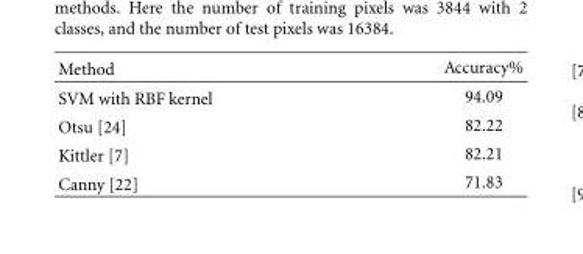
<table><thead><tr><td>Method</td><td>Accuracy%</td></tr></thead><tbody><tr><td>SVM with RBF kernel</td><td>94.09</td></tr><tr><td>Otsu [24]</td><td>82.22</td></tr><tr><td>Kittler [7]</td><td>82.21</td></tr><tr><td>Canny [22]</td><td>71.83</td></tr></tbody></table>